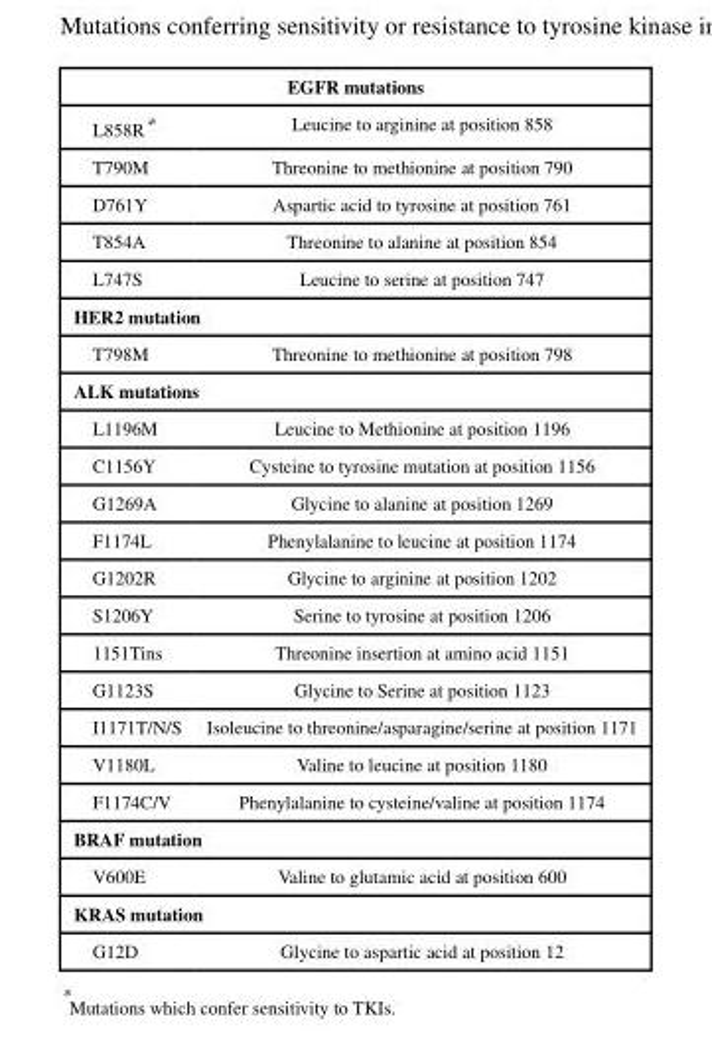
<table><tbody><tr><td colspan="2">EGFR mutations</td></tr><tr><td>L858R*</td><td>Leucine to arginine at position 858</td></tr><tr><td>T790M</td><td>Threonine to methionine at position 790</td></tr><tr><td>D761Y</td><td>Aspartic acid to tyrosine at position 761</td></tr><tr><td>T854A</td><td>Threonine to alanine at position 854</td></tr><tr><td>L747S</td><td>Leucine to serine at position 747</td></tr><tr><td colspan="2">HER2 mutation</td></tr><tr><td>T798M</td><td>Threonine to methionine at position 798</td></tr><tr><td colspan="2">ALK mutations</td></tr><tr><td>L1196M</td><td>Leucine to Methionine at position 1196</td></tr><tr><td>C1156Y</td><td>Cysteine to tyrosine mutation at position 1156</td></tr><tr><td>G1269A</td><td>Glycine to alanine at position 1269</td></tr><tr><td>F1174L</td><td>Phenylalanine to leucine at position 1174</td></tr><tr><td>G1202R</td><td>Glycine to arginine at position 1202</td></tr><tr><td>S1206Y</td><td>Serine to tyrosine at position 1206</td></tr><tr><td>1151Tins</td><td>Threonine insertion at amino acid 1151</td></tr><tr><td>G1123S</td><td>Glycine to Serine at position 1123</td></tr><tr><td>I1171T/N/S</td><td>Isoleucine to threonine/asparagine/serine at position 1171</td></tr><tr><td>V1180L</td><td>Valine to leucine at position 1180</td></tr><tr><td>F1174C/V</td><td>Phenylalanine to cysteine/valine at position 1174</td></tr><tr><td colspan="2">BRAF mutation</td></tr><tr><td>V600E</td><td>Valine to glutamic acid at position 600</td></tr><tr><td colspan="2">KRAS mutation</td></tr><tr><td>G12D</td><td>Glycine to aspartic acid at position 12</td></tr></tbody></table>